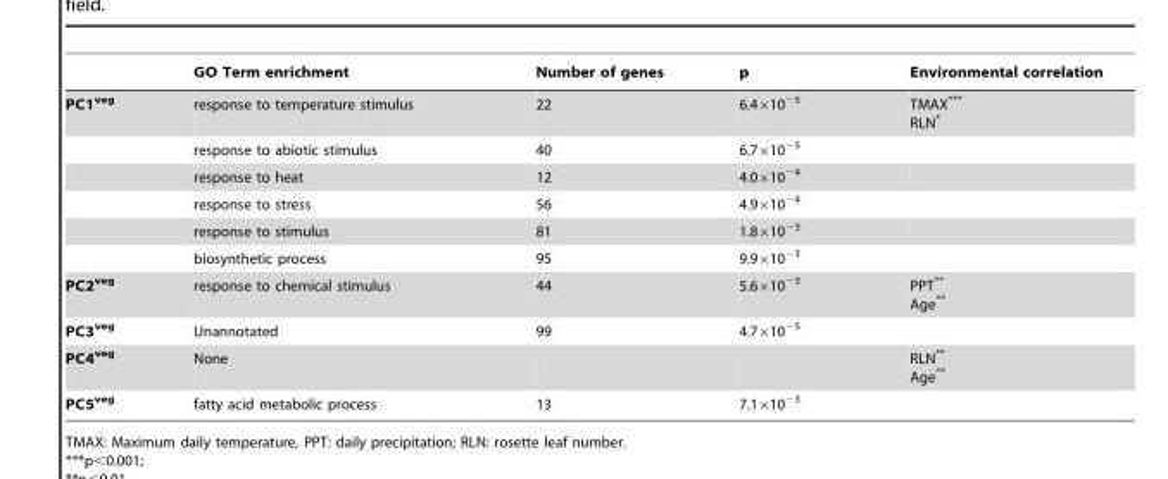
<table><thead><tr><td></td><td>GO Term enrichment</td><td>Number of genes</td><td>p</td><td>Environmental correlation</td></tr></thead><tbody><tr><td rowspan="6">PC1<sup>veg</sup></td><td>response to temperature stimulus</td><td>22</td><td>6.4×10<sup>−5</sup></td><td>TMAX*** RLN*</td></tr><tr><td>response to abiotic stimulus</td><td>40</td><td>6.7×10<sup>−5</sup></td><td></td></tr><tr><td>response to heat</td><td>12</td><td>4.0×10<sup>−4</sup></td><td></td></tr><tr><td>response to stress</td><td>56</td><td>4.9×10<sup>−4</sup></td><td></td></tr><tr><td>response to stimulus</td><td>81</td><td>1.8×10<sup>−3</sup></td><td></td></tr><tr><td>biosynthetic process</td><td>95</td><td>9.9×10<sup>−3</sup></td><td></td></tr><tr><td>PC2<sup>veg</sup></td><td>response to chemical stimulus</td><td>44</td><td>5.6×10<sup>−3</sup></td><td>PPT** Age**</td></tr><tr><td>PC3<sup>veg</sup></td><td>Unannotated</td><td>99</td><td>4.7×10<sup>−5</sup></td><td></td></tr><tr><td>PC4<sup>veg</sup></td><td>None</td><td></td><td></td><td>RLN** Age**</td></tr><tr><td>PC5<sup>veg</sup></td><td>fatty acid metabolic process</td><td>13</td><td>7.1×10<sup>−3</sup></td><td></td></tr></tbody></table>